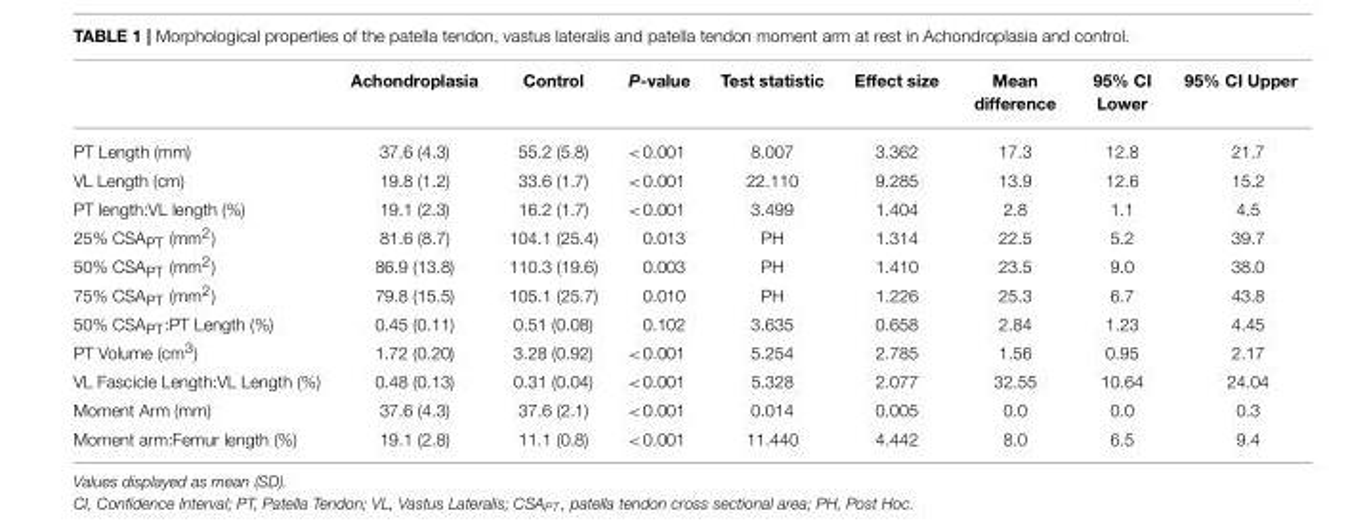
<table><thead><tr><td></td><td>Achondroplasia</td><td>Control</td><td>P-value</td><td>Test statistic</td><td>Effect size</td><td>Mean difference</td><td>95% CI Lower</td><td>95% CI Upper</td></tr></thead><tbody><tr><td>PT Length (mm)</td><td>37.6 (4.3)</td><td>55.2 (5.8)</td><td>&lt;0.001</td><td>8.007</td><td>3.362</td><td>17.3</td><td>12.8</td><td>21.7</td></tr><tr><td>VL Length (cm)</td><td>19.8 (1.2)</td><td>33.6 (1.7)</td><td>&lt;0.001</td><td>22.110</td><td>9.285</td><td>13.9</td><td>12.6</td><td>15.2</td></tr><tr><td>PT length:VL length (%)</td><td>19.1 (2.3)</td><td>16.2 (1.7)</td><td>&lt;0.001</td><td>3.499</td><td>1.404</td><td>2.8</td><td>1.1</td><td>4.5</td></tr><tr><td>25% CSA<sub>PT</sub> (mm<sup>2</sup>)</td><td>81.6 (8.7)</td><td>104.1 (25.4)</td><td>0.013</td><td>PH</td><td>1.314</td><td>22.5</td><td>5.2</td><td>39.7</td></tr><tr><td>50% CSA<sub>PT</sub> (mm<sup>2</sup>)</td><td>86.9 (13.8)</td><td>110.3 (19.6)</td><td>0.003</td><td>PH</td><td>1.410</td><td>23.5</td><td>9.0</td><td>38.0</td></tr><tr><td>75% CSA<sub>PT</sub> (mm<sup>2</sup>)</td><td>79.8 (15.5)</td><td>105.1 (25.7)</td><td>0.010</td><td>PH</td><td>1.226</td><td>25.3</td><td>6.7</td><td>43.8</td></tr><tr><td>50% CSA<sub>PT</sub>:PT Length (%)</td><td>0.45 (0.11)</td><td>0.51 (0.08)</td><td>0.102</td><td>3.635</td><td>0.658</td><td>2.84</td><td>1.23</td><td>4.45</td></tr><tr><td>PT Volume (cm<sup>3</sup>)</td><td>1.72 (0.20)</td><td>3.28 (0.92)</td><td>&lt;0.001</td><td>5.254</td><td>2.785</td><td>1.56</td><td>0.95</td><td>2.17</td></tr><tr><td>VL Fascicle Length:VL Length (%)</td><td>0.48 (0.13)</td><td>0.31 (0.04)</td><td>&lt;0.001</td><td>5.328</td><td>2.077</td><td>32.55</td><td>10.64</td><td>24.04</td></tr><tr><td>Moment Arm (mm)</td><td>37.6 (4.3)</td><td>37.6 (2.1)</td><td>&lt;0.001</td><td>0.014</td><td>0.005</td><td>0.0</td><td>0.0</td><td>0.3</td></tr><tr><td>Moment arm:Femur length (%)</td><td>19.1 (2.8)</td><td>11.1 (0.8)</td><td>&lt;0.001</td><td>11.440</td><td>4.442</td><td>8.0</td><td>6.5</td><td>9.4</td></tr></tbody></table>